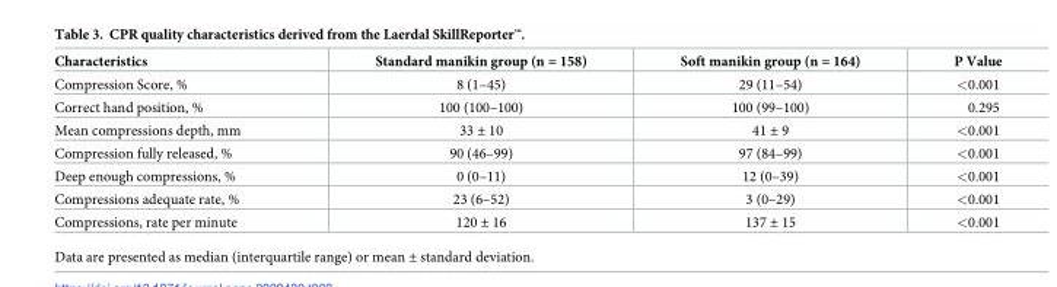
<table><thead><tr><td>Characteristics</td><td>Standard manikin group (n = 158)</td><td>Soft manikin group (n = 164)</td><td>P Value</td></tr></thead><tbody><tr><td>Compression Score, %</td><td>8 (1–45)</td><td>29 (11–54)</td><td>&lt;0.001</td></tr><tr><td>Correct hand position, %</td><td>100 (100–100)</td><td>100 (99–100)</td><td>0.295</td></tr><tr><td>Mean compressions depth, mm</td><td>33 ± 10</td><td>41 ± 9</td><td>&lt;0.001</td></tr><tr><td>Compression fully released, %</td><td>90 (46–99)</td><td>97 (84–99)</td><td>&lt;0.001</td></tr><tr><td>Deep enough compressions, %</td><td>0 (0–11)</td><td>12 (0–39)</td><td>&lt;0.001</td></tr><tr><td>Compressions adequate rate, %</td><td>23 (6–52)</td><td>3 (0–29)</td><td>&lt;0.001</td></tr><tr><td>Compressions, rate per minute</td><td>120 ± 16</td><td>137 ± 15</td><td>&lt;0.001</td></tr></tbody></table>